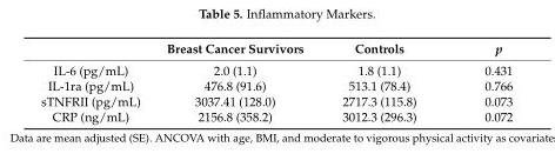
<table><thead><tr><td></td><td>Breast Cancer Survivors</td><td>Controls</td><td>p</td></tr></thead><tbody><tr><td>IL-6 (pg/mL)</td><td>2.0 (1.1)</td><td>1.8 (1.1)</td><td>0.431</td></tr><tr><td>IL-1ra (pg/mL)</td><td>476.8 (91.6)</td><td>513.1 (78.4)</td><td>0.766</td></tr><tr><td>sTNFRII (pg/mL)</td><td>3037.41 (128.0)</td><td>2717.3 (115.8)</td><td>0.073</td></tr><tr><td>CRP (ng/mL)</td><td>2156.8 (358.2)</td><td>3012.3 (296.3)</td><td>0.072</td></tr></tbody></table>